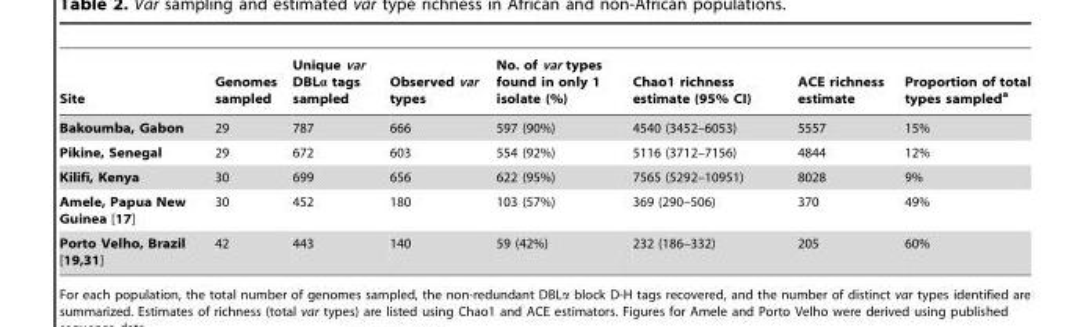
<table><thead><tr><td>Site</td><td>Genomes sampled</td><td>Unique var DBLα tags sampled</td><td>Observed var types</td><td>No. of var types found in only 1 isolate (%)</td><td>Chao1 richness estimate (95% CI)</td><td>ACE richness estimate</td><td>Proportion of total types sampled<sup>a</sup></td></tr></thead><tbody><tr><td>Bakoumba, Gabon</td><td>29</td><td>787</td><td>666</td><td>597 (90%)</td><td>4540 (3452–6053)</td><td>5557</td><td>15%</td></tr><tr><td>Pikine, Senegal</td><td>29</td><td>672</td><td>603</td><td>554 (92%)</td><td>5116 (3712–7156)</td><td>4844</td><td>12%</td></tr><tr><td>Kilifi, Kenya</td><td>30</td><td>699</td><td>656</td><td>622 (95%)</td><td>7565 (5292–10951)</td><td>8028</td><td>9%</td></tr><tr><td>Amele, Papua New Guinea [17]</td><td>30</td><td>452</td><td>180</td><td>103 (57%)</td><td>369 (290–506)</td><td>370</td><td>49%</td></tr><tr><td>Porto Velho, Brazil [19,31]</td><td>42</td><td>443</td><td>140</td><td>59 (42%)</td><td>232 (186–332)</td><td>205</td><td>60%</td></tr></tbody></table>